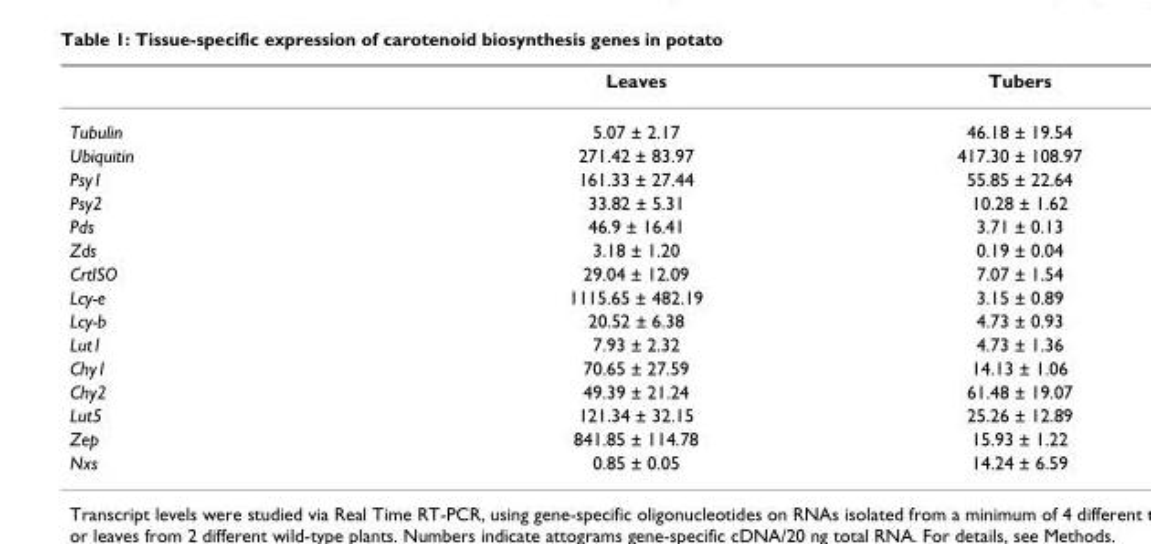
<table><thead><tr><td></td><td>Leaves</td><td>Tubers</td></tr></thead><tbody><tr><td>Tubulin</td><td>5.07 ± 2.17</td><td>46.18 ± 19.54</td></tr><tr><td>Ubiquitin</td><td>271.42 ± 83.97</td><td>417.30 ± 108.97</td></tr><tr><td>Psy1</td><td>161.33 ± 27.44</td><td>55.85 ± 22.64</td></tr><tr><td>Psy2</td><td>33.82 ± 5.31</td><td>10.28 ± 1.62</td></tr><tr><td>Pds</td><td>46.9 ± 16.41</td><td>3.71 ± 0.13</td></tr><tr><td>Zds</td><td>3.18 ± 1.20</td><td>0.19 ± 0.04</td></tr><tr><td>CrtISO</td><td>29.04 ± 12.09</td><td>7.07 ± 1.54</td></tr><tr><td>Lcy-e</td><td>1115.65 ± 482.19</td><td>3.15 ± 0.89</td></tr><tr><td>Lcy-b</td><td>20.52 ± 6.38</td><td>4.73 ± 0.93</td></tr><tr><td>Lut1</td><td>7.93 ± 2.32</td><td>4.73 ± 1.36</td></tr><tr><td>Chy1</td><td>70.65 ± 27.59</td><td>14.13 ± 1.06</td></tr><tr><td>Chy2</td><td>49.39 ± 21.24</td><td>61.48 ± 19.07</td></tr><tr><td>Lut5</td><td>121.34 ± 32.15</td><td>25.26 ± 12.89</td></tr><tr><td>Zep</td><td>841.85 ± 114.78</td><td>15.93 ± 1.22</td></tr><tr><td>Nxs</td><td>0.85 ± 0.05</td><td>14.24 ± 6.59</td></tr></tbody></table>